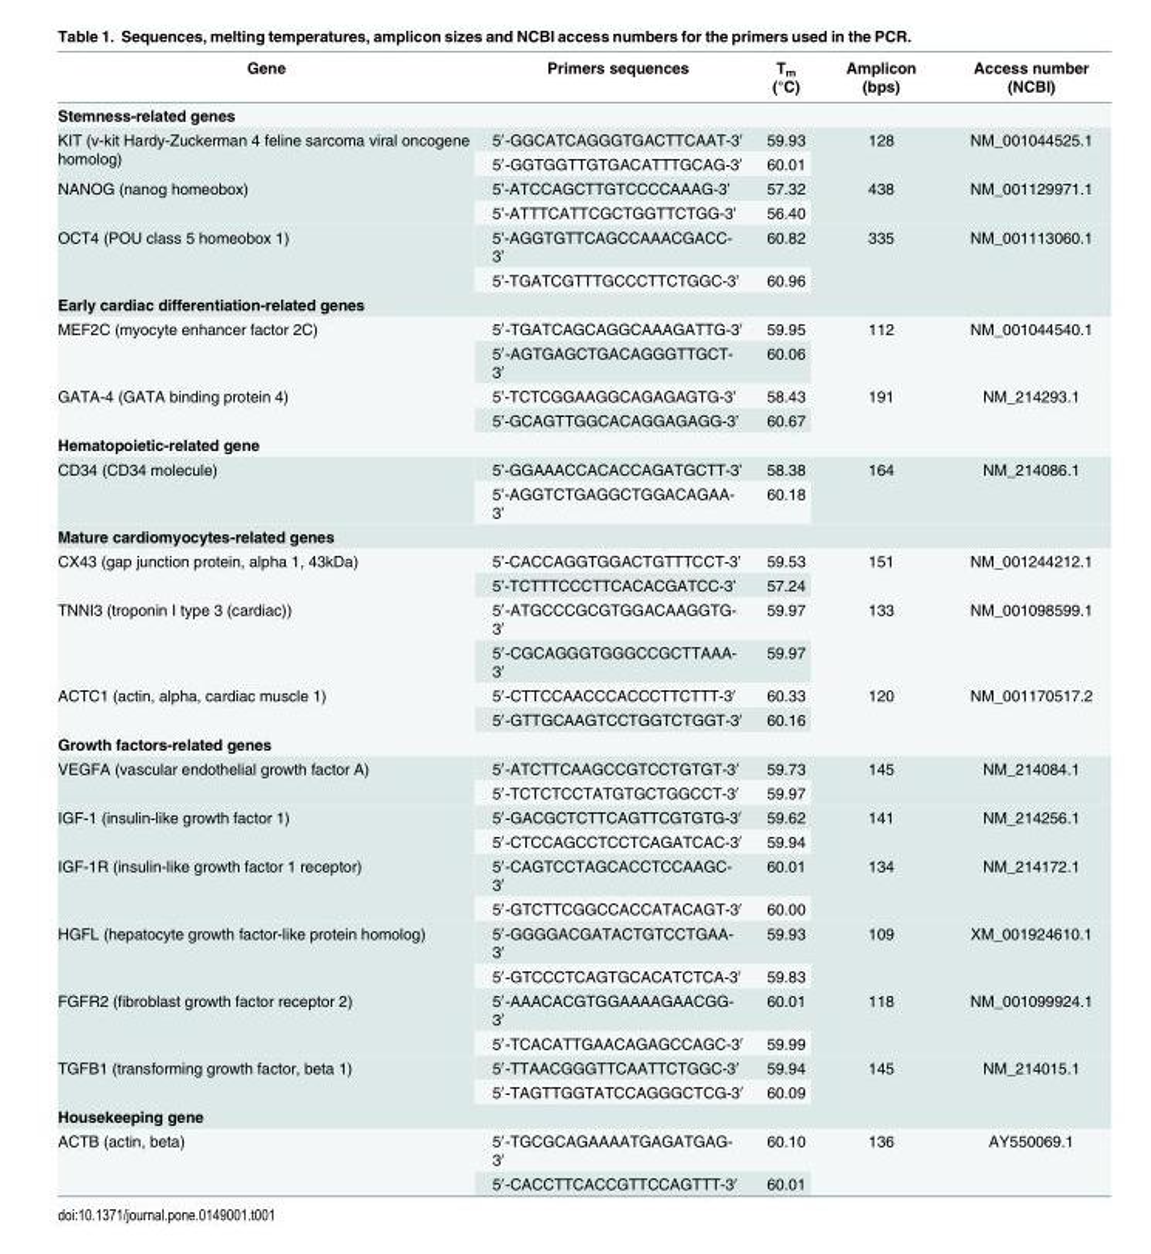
<table><thead><tr><td>Gene</td><td>Primers sequences</td><td>T<sub>m</sub> (°C)</td><td>Amplicon (bps)</td><td>Access number (NCBI)</td></tr></thead><tbody><tr><td colspan="5">Stemness-related genes</td></tr><tr><td rowspan="2">KIT (v-kit Hardy-Zuckerman 4 feline sarcoma viral oncogene homolog)</td><td>5′-GGCATCAGGGTGACTTCAAT-3′</td><td>59.93</td><td rowspan="2">128</td><td rowspan="2">NM_001044525.1</td></tr><tr><td>5′-GGTGGTTGTGACATTTGCAG-3′</td><td>60.01</td></tr><tr><td rowspan="2">NANOG (nanog homeobox)</td><td>5’-ATCCAGCTTGTCCCCAAAG-3’</td><td>57.32</td><td rowspan="2">438</td><td rowspan="2">NM_001129971.1</td></tr><tr><td>5’-ATTTCATTCGCTGGTTCTGG-3’</td><td>56.40</td></tr><tr><td rowspan="2">OCT4 (POU class 5 homeobox 1)</td><td>5’-AGGTGTTCAGCCAAACGACC- 3’</td><td>60.82</td><td rowspan="2">335</td><td rowspan="2">NM_001113060.1</td></tr><tr><td>5’-TGATCGTTTGCCCTTCTGGC-3’</td><td>60.96</td></tr><tr><td colspan="5">Early cardiac differentiation-related genes</td></tr><tr><td rowspan="2">MEF2C (myocyte enhancer factor 2C)</td><td>5′-TGATCAGCAGGCAAAGATTG-3′</td><td>59.95</td><td rowspan="2">112</td><td rowspan="2">NM_001044540.1</td></tr><tr><td>5′-AGTGAGCTGACAGGGTTGCT- 3′</td><td>60.06</td></tr><tr><td rowspan="2">GATA-4 (GATA binding protein 4)</td><td>5’-TCTCGGAAGGCAGAGAGTG-3’</td><td>58.43</td><td rowspan="2">191</td><td rowspan="2">NM_214293.1</td></tr><tr><td>5’-GCAGTTGGCACAGGAGAGG-3’</td><td>60.67</td></tr><tr><td colspan="5">Hematopoietic-related gene</td></tr><tr><td rowspan="2">CD34 (CD34 molecule)</td><td>5’-GGAAACCACACCAGATGCTT-3’</td><td>58.38</td><td rowspan="2">164</td><td rowspan="2">NM_214086.1</td></tr><tr><td>5’-AGGTCTGAGGCTGGACAGAA- 3’</td><td>60.18</td></tr><tr><td colspan="5">Mature cardiomyocytes-related genes</td></tr><tr><td rowspan="2">CX43 (gap junction protein, alpha 1, 43kDa)</td><td>5’-CACCAGGTGGACTGTTTCCT-3’</td><td>59.53</td><td rowspan="2">151</td><td rowspan="2">NM_001244212.1</td></tr><tr><td>5’-TCTTTCCCTTCACACGATCC-3’</td><td>57.24</td></tr><tr><td rowspan="2">TNNI3 (troponin I type 3 (cardiac))</td><td>5′-ATGCCCGCGTGGACAAGGTG- 3′</td><td>59.97</td><td rowspan="2">133</td><td rowspan="2">NM_001098599.1</td></tr><tr><td>5′-CGCAGGGTGGGCCGCTTAAA- 3′</td><td>59.97</td></tr><tr><td rowspan="2">ACTC1 (actin, alpha, cardiac muscle 1)</td><td>5′-CTTCCAACCCACCCTTCTTT-3′</td><td>60.33</td><td rowspan="2">120</td><td rowspan="2">NM_001170517.2</td></tr><tr><td>5′-GTTGCAAGTCCTGGTCTGGT-3′</td><td>60.16</td></tr><tr><td colspan="5">Growth factors-related genes</td></tr><tr><td rowspan="2">VEGFA (vascular endothelial growth factor A)</td><td>5′-ATCTTCAAGCCGTCCTGTGT-3′</td><td>59.73</td><td rowspan="2">145</td><td rowspan="2">NM_214084.1</td></tr><tr><td>5′-TCTCTCCTATGTGCTGGCCT-3′</td><td>59.97</td></tr><tr><td rowspan="2">IGF-1 (insulin-like growth factor 1)</td><td>5′-GACGCTCTTCAGTTCGTGTG-3′</td><td>59.62</td><td rowspan="2">141</td><td rowspan="2">NM_214256.1</td></tr><tr><td>5′-CTCCAGCCTCCTCAGATCAC-3′</td><td>59.94</td></tr><tr><td rowspan="2">IGF-1R (insulin-like growth factor 1 receptor)</td><td>5′-CAGTCCTAGCACCTCCAAGC- 3′</td><td>60.01</td><td rowspan="2">134</td><td rowspan="2">NM_214172.1</td></tr><tr><td>5′-GTCTTCGGCCACCATACAGT-3′</td><td>60.00</td></tr><tr><td rowspan="2">HGFL (hepatocyte growth factor-like protein homolog)</td><td>5′-GGGGACGATACTGTCCTGAA- 3′</td><td>59.93</td><td rowspan="2">109</td><td rowspan="2">XM_001924610.1</td></tr><tr><td>5′-GTCCCTCAGTGCACATCTCA-3′</td><td>59.83</td></tr><tr><td rowspan="2">FGFR2 (fibroblast growth factor receptor 2)</td><td>5′-AAACACGTGGAAAAGAACGG- 3′</td><td>60.01</td><td rowspan="2">118</td><td rowspan="2">NM_001099924.1</td></tr><tr><td>5′-TCACATTGAACAGAGCCAGC-3′</td><td>59.99</td></tr><tr><td rowspan="2">TGFB1 (transforming growth factor, beta 1)</td><td>5′-TTAACGGGTTCAATTCTGGC-3′</td><td>59.94</td><td rowspan="2">145</td><td rowspan="2">NM_214015.1</td></tr><tr><td>5′-TAGTTGGTATCCAGGGCTCG-3′</td><td>60.09</td></tr><tr><td colspan="5">Housekeeping gene</td></tr><tr><td rowspan="2">ACTB (actin, beta)</td><td>5′-TGCGCAGAAAATGAGATGAG- 3′</td><td>60.10</td><td rowspan="2">136</td><td rowspan="2">AY550069.1</td></tr><tr><td>5′-CACCTTCACCGTTCCAGTTT-3′</td><td>60.01</td></tr></tbody></table>